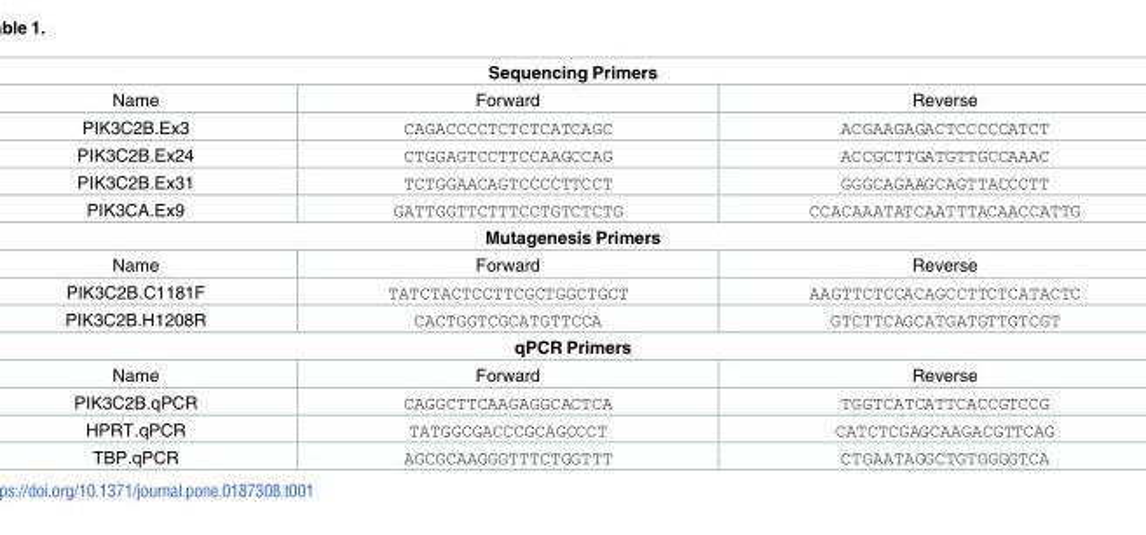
<table><thead><tr><td colspan="3">Sequencing Primers</td></tr><tr><td>Name</td><td>Forward</td><td>Reverse</td></tr></thead><tbody><tr><td>PIK3C2B.Ex3</td><td>CAGACCCCTCTCTCATCAGC</td><td>ACGAAGAGACTCCCCCATCT</td></tr><tr><td>PIK3C2B.Ex24</td><td>CTGGAGTCCTTCCAAGCCAG</td><td>ACCGCTTGATGTTGCCAAAC</td></tr><tr><td>PIK3C2B.Ex31</td><td>TCTGGAACAGTCCCCTTCCT</td><td>GGGCAGAAGCAGTTACCCTT</td></tr><tr><td>PIK3CA.Ex9</td><td>GATTGGTTCTTTCCTGTCTCTG</td><td>CCACAAATATCAATTTACAACCATTG</td></tr><tr><td colspan="3">Mutagenesis Primers</td></tr><tr><td>Name</td><td>Forward</td><td>Reverse</td></tr><tr><td>PIK3C2B.C1181F</td><td>TATCTACTCCTTCGCTGGCTGCT</td><td>AAGTTCTCCACAGCCTTCTCATACTC</td></tr><tr><td>PIK3C2B.H1208R</td><td>CACTGGTCGCATGTTCCA</td><td>GTCTTCAGCATGATGTTGTCGT</td></tr><tr><td colspan="3">qPCR Primers</td></tr><tr><td>Name</td><td>Forward</td><td>Reverse</td></tr><tr><td>PIK3C2B.qPCR</td><td>CAGGCTTCAAGAGGCACTCA</td><td>TGGTCATCATTCACCGTCCG</td></tr><tr><td>HPRT.qPCR</td><td>TATGGCGACCCGCAGCCCT</td><td>CATCTCGAGCAAGACGTTCAG</td></tr><tr><td>TBP.qPCR</td><td>AGCGCAAGGGTTTCTGGTTT</td><td>CTGAATAGGCTGTGGGGTCA</td></tr></tbody></table>